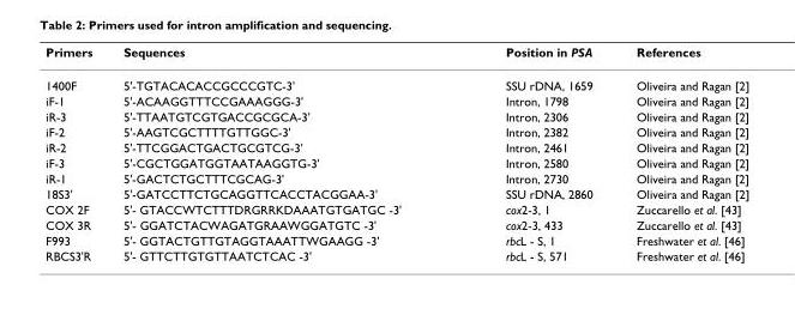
<table><thead><tr><td>Primers</td><td>Sequences</td><td>Position in PSA</td><td>References</td></tr></thead><tbody><tr><td>1400F</td><td>5&#x27;-TGTACACACCGCCCGTC-3&#x27;</td><td>SSU rDNA, 1659</td><td>Oliveira and Ragan [2]</td></tr><tr><td>iF-1</td><td>5&#x27;-ACAAGGTTTCCGAAAGGG-3&#x27;</td><td>Intron, 1798</td><td>Oliveira and Ragan [2]</td></tr><tr><td>iR-3</td><td>5&#x27;-TTAATGTCGTGACCGCGCA-3&#x27;</td><td>Intron, 2306</td><td>Oliveira and Ragan [2]</td></tr><tr><td>iF-2</td><td>5&#x27;-AAGTCGCTTTTGTTGGC-3&#x27;</td><td>Intron, 2382</td><td>Oliveira and Ragan [2]</td></tr><tr><td>iR-2</td><td>5&#x27;-TTCGGACTGACTGCGTCG-3&#x27;</td><td>Intron, 2461</td><td>Oliveira and Ragan [2]</td></tr><tr><td>iF-3</td><td>5&#x27;-CGCTGGATGGTAATAAGGTG-3&#x27;</td><td>Intron, 2580</td><td>Oliveira and Ragan [2]</td></tr><tr><td>iR-1</td><td>5&#x27;-GACTCTGCTTTCGCAG-3&#x27;</td><td>Intron, 2730</td><td>Oliveira and Ragan [2]</td></tr><tr><td>18S3&#x27;</td><td>5&#x27;-GATCCTTCTGCAGGTTCACCTACGGAA-3&#x27;</td><td>SSU rDNA, 2860</td><td>Oliveira and Ragan [2]</td></tr><tr><td>COX 2F</td><td>5&#x27;- GTACCWTCTTTDRGRRKDAAATGTGATGC -3&#x27;</td><td>cox2-3, 1</td><td>Zuccarello et al. [43]</td></tr><tr><td>COX 3R</td><td>5&#x27;- GGATCTACWAGATGRAAWGGATGTC -3&#x27;</td><td>cox2-3, 433</td><td>Zuccarello et al. [43]</td></tr><tr><td>F993</td><td>5&#x27;- GGTACTGTTGTAGGTAAATTWGAAGG -3&#x27;</td><td>rbcL - S, 1</td><td>Freshwater et al. [46]</td></tr><tr><td>RBCS3&#x27;R</td><td>5&#x27;- GTTCTTGTGTTAATCTCAC -3&#x27;</td><td>rbcL - S, 571</td><td>Freshwater et al. [46]</td></tr></tbody></table>